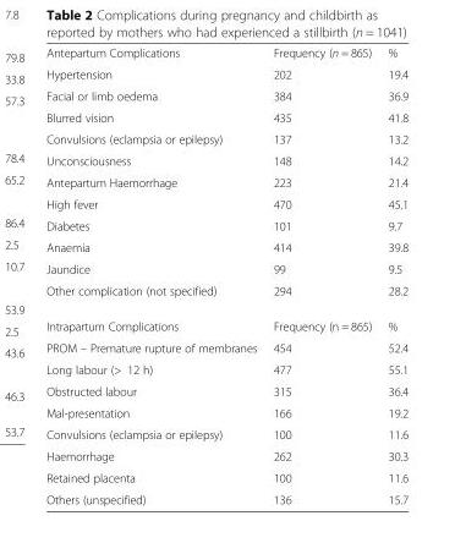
<table><tbody><tr><td>Antepartum Complications</td><td>Frequency (n = 865)</td><td>%</td></tr><tr><td>Hypertension</td><td>202</td><td>19.4</td></tr><tr><td>Facial or limb oedema</td><td>384</td><td>36.9</td></tr><tr><td>Blurred vision</td><td>435</td><td>41.8</td></tr><tr><td>Convulsions (eclampsia or epilepsy)</td><td>137</td><td>13.2</td></tr><tr><td>Unconsciousness</td><td>148</td><td>14.2</td></tr><tr><td>Antepartum Haemorrhage</td><td>223</td><td>21.4</td></tr><tr><td>High fever</td><td>470</td><td>45.1</td></tr><tr><td>Diabetes</td><td>101</td><td>9.7</td></tr><tr><td>Anaemia</td><td>414</td><td>39.8</td></tr><tr><td>Jaundice</td><td>99</td><td>9.5</td></tr><tr><td>Other complication (not specified)</td><td>294</td><td>28.2</td></tr><tr><td>Intrapartum Complications</td><td>Frequency (n = 865)</td><td>%</td></tr><tr><td>PROM – Premature rupture of membranes</td><td>454</td><td>52.4</td></tr><tr><td>Long labour (&gt; 12 h)</td><td>477</td><td>55.1</td></tr><tr><td>Obstructed labour</td><td>315</td><td>36.4</td></tr><tr><td>Mal-presentation</td><td>166</td><td>19.2</td></tr><tr><td>Convulsions (eclampsia or epilepsy)</td><td>100</td><td>11.6</td></tr><tr><td>Haemorrhage</td><td>262</td><td>30.3</td></tr><tr><td>Retained placenta</td><td>100</td><td>11.6</td></tr><tr><td>Others (unspecified)</td><td>136</td><td>15.7</td></tr></tbody></table>